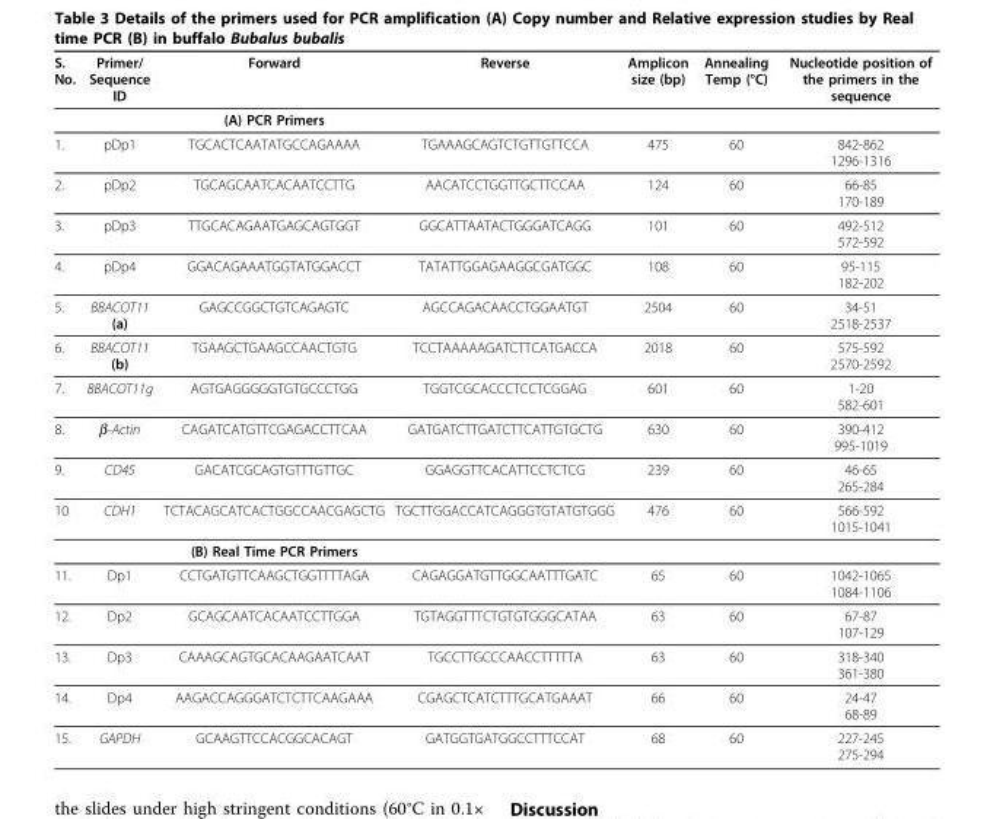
<table><thead><tr><td>S. No.</td><td>Primer/ Sequence ID</td><td>Forward</td><td>Reverse</td><td>Amplicon size (bp)</td><td>Annealing Temp (°C)</td><td>Nucleotide position of the primers in the sequence</td></tr></thead><tbody><tr><td></td><td></td><td>(A) PCR Primers</td><td></td><td></td><td></td><td></td></tr><tr><td>1.</td><td>pDp1</td><td>TGCACTCAATATGCCAGAAAA</td><td>TGAAAGCAGTCTGTTGTTCCA</td><td>475</td><td>60</td><td>842-862 1296-1316</td></tr><tr><td>2.</td><td>pDp2</td><td>TGCAGCAATCACAATCCTTG</td><td>AACATCCTGGTTGCTTCCAA</td><td>124</td><td>60</td><td>66-85 170-189</td></tr><tr><td>3.</td><td>pDp3</td><td>TTGCACAGAATGAGCAGTGGT</td><td>GGCATTAATACTGGGATCAGG</td><td>101</td><td>60</td><td>492-512 572-592</td></tr><tr><td>4.</td><td>pDp4</td><td>GGACAGAAATGGTATGGACCT</td><td>TATATTGGAGAAGGCGATGGC</td><td>108</td><td>60</td><td>95-115 182-202</td></tr><tr><td>5.</td><td>BBACOT11 (a)</td><td>GAGCCGGCTGTCAGAGTC</td><td>AGCCAGACAACCTGGAATGT</td><td>2504</td><td>60</td><td>34-51 2518-2537</td></tr><tr><td>6.</td><td>BBACOT11 (b)</td><td>TGAAGCTGAAGCCAACTGTG</td><td>TCCTAAAAAGATCTTCATGACCA</td><td>2018</td><td>60</td><td>575-592 2570-2592</td></tr><tr><td>7.</td><td>BBACOT11g</td><td>AGTGAGGGGGTGTGCCCTGG</td><td>TGGTCGCACCCTCCTCGGAG</td><td>601</td><td>60</td><td>1-20 582-601</td></tr><tr><td>8.</td><td>β-Actin</td><td>CAGATCATGTTCGAGACCTTCAA</td><td>GATGATCTTGATCTTCATTGTGCTG</td><td>630</td><td>60</td><td>390-412 995-1019</td></tr><tr><td>9.</td><td>CD45</td><td>GACATCGCAGTGTTTGTTGC</td><td>GGAGGTTCACATTCCTCTCG</td><td>239</td><td>60</td><td>46-65 265-284</td></tr><tr><td rowspan="2">10</td><td>CDH1</td><td>TCTACAGCATCACTGGCCAACGAGCTG</td><td>TGCTTGGACCATCAGGGTGTATGTGGG</td><td>476</td><td>60</td><td>566-592 1015-1041</td></tr><tr><td></td><td>(B) Real Time PCR Primers</td><td></td><td></td><td></td><td></td></tr><tr><td>11.</td><td>Dp1</td><td>CCTGATGTTCAAGCTGGTTTTAGA</td><td>CAGAGGATGTTGGCAATTTGATC</td><td>65</td><td>60</td><td>1042-1065 1084-1106</td></tr><tr><td>12.</td><td>Dp2</td><td>GCAGCAATCACAATCCTTGGA</td><td>TGTAGGTTTCTGTGTGGGCATAA</td><td>63</td><td>60</td><td>67-87 107-129</td></tr><tr><td>13.</td><td>Dp3</td><td>CAAAGCAGTGCACAAGAATCAAT</td><td>TGCCTTGCCCAACCTTTTTA</td><td>63</td><td>60</td><td>318-340 361-380</td></tr><tr><td>14.</td><td>Dp4</td><td>AAGACCAGGGATCTCTTCAAGAAA</td><td>CGAGCTCATCTTTGCATGAAAT</td><td>66</td><td>60</td><td>24-47 68-89</td></tr><tr><td>15.</td><td>GAPDH</td><td>GCAAGTTCCACGGCACAGT</td><td>GATGGTGATGGCCTTTCCAT</td><td>68</td><td>60</td><td>227-245 275-294</td></tr></tbody></table>